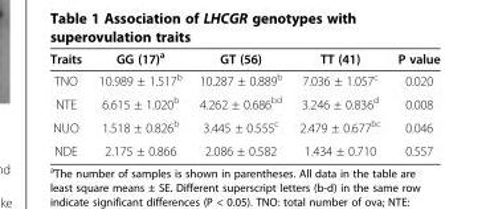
<table><thead><tr><td>Traits</td><td>GG (17)<sup>a</sup></td><td>GT (56)</td><td>TT (41)</td><td>P value</td></tr></thead><tbody><tr><td>TNO</td><td>10.989 ± 1.517<sup>b</sup></td><td>10.287 ± 0.889<sup>b</sup></td><td>7.036 ± 1.057<sup>c</sup></td><td>0.020</td></tr><tr><td>NTE</td><td>6.615 ± 1.020<sup>b</sup></td><td>4.262 ± 0.686<sup>bd</sup></td><td>3.246 ± 0.836<sup>d</sup></td><td>0.008</td></tr><tr><td>NUO</td><td>1.518 ± 0.826<sup>b</sup></td><td>3.445 ± 0.555<sup>c</sup></td><td>2.479 ± 0.677<sup>bc</sup></td><td>0.046</td></tr><tr><td>NDE</td><td>2.175 ± 0.866</td><td>2.086 ± 0.582</td><td>1.434 ± 0.710</td><td>0.557</td></tr></tbody></table>